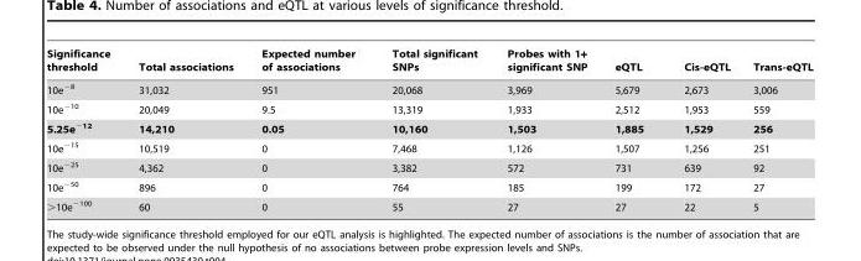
<table><thead><tr><td>Significance threshold</td><td>Total associations</td><td>Expected number of associations</td><td>Total significant SNPs</td><td>Probes with 1+ significant SNP</td><td>eQTL</td><td>Cis-eQTL</td><td>Trans-eQTL</td></tr></thead><tbody><tr><td>10e<sup>−8</sup></td><td>31,032</td><td>951</td><td>20,068</td><td>3,969</td><td>5,679</td><td>2,673</td><td>3,006</td></tr><tr><td>10e<sup>−10</sup></td><td>20,049</td><td>9.5</td><td>13,319</td><td>1,933</td><td>2,512</td><td>1,953</td><td>559</td></tr><tr><td>5.25e<sup>−12</sup></td><td>14,210</td><td>0.05</td><td>10,160</td><td>1,503</td><td>1,885</td><td>1,529</td><td>256</td></tr><tr><td>10e<sup>−15</sup></td><td>10,519</td><td>0</td><td>7,468</td><td>1,126</td><td>1,507</td><td>1,256</td><td>251</td></tr><tr><td>10e<sup>−25</sup></td><td>4,362</td><td>0</td><td>3,382</td><td>572</td><td>731</td><td>639</td><td>92</td></tr><tr><td>10e<sup>−50</sup></td><td>896</td><td>0</td><td>764</td><td>185</td><td>199</td><td>172</td><td>27</td></tr><tr><td>&gt;10e<sup>−100</sup></td><td>60</td><td>0</td><td>55</td><td>27</td><td>27</td><td>22</td><td>5</td></tr></tbody></table>